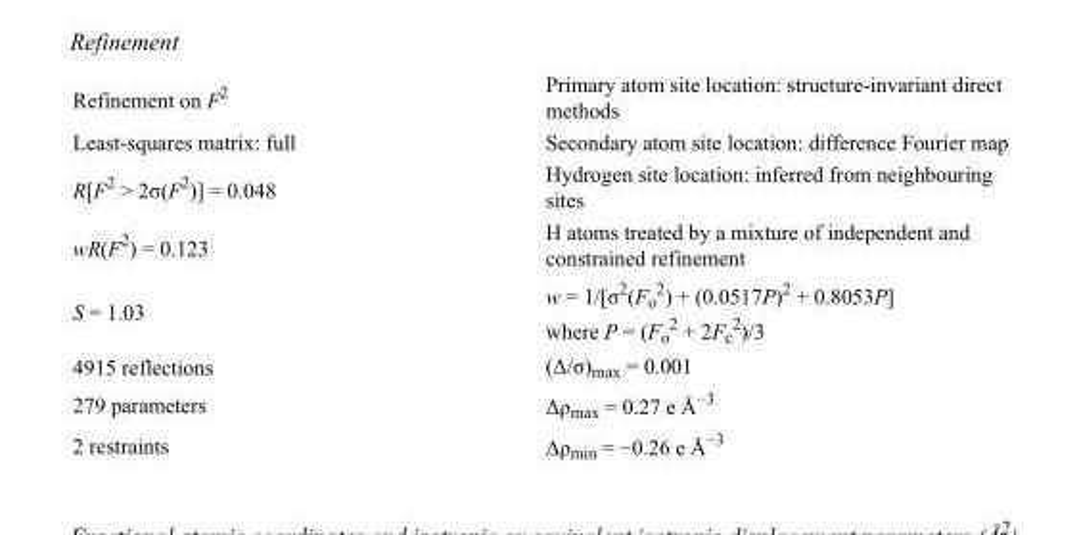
<table><tbody><tr><td>Refinement on F<sup>2</sup></td><td>Primary atom site location: structure-invariant direct methods</td></tr><tr><td>Least-squares matrix: full</td><td>Secondary atom site location: difference Fourier map</td></tr><tr><td>R[F<sup>2</sup> &gt; 2σ(F<sup>2</sup>)] = 0.048</td><td>Hydrogen site location: inferred from neighbouring sites</td></tr><tr><td>wR(F<sup>2</sup>) = 0.123</td><td>H atoms treated by a mixture of independent and constrained refinement</td></tr><tr><td>S = 1.03</td><td>w = 1/[σ<sup>2</sup>(F<sub>o</sub> <sup>2</sup>) + (0.0517P)<sup>2</sup> + 0.8053P] where P = (F<sub>o</sub> <sup>2</sup> + 2F<sub>c</sub> <sup>2</sup>)/3</td></tr><tr><td>4915 reflections</td><td>(Δ/σ)<sub>max</sub> = 0.001</td></tr><tr><td>279 parameters</td><td>Δρ<sub>max</sub> = 0.27 e Å<sup>−3</sup></td></tr><tr><td>2 restraints</td><td>Δρ<sub>min</sub> = −0.26 e Å<sup>−3</sup></td></tr></tbody></table>